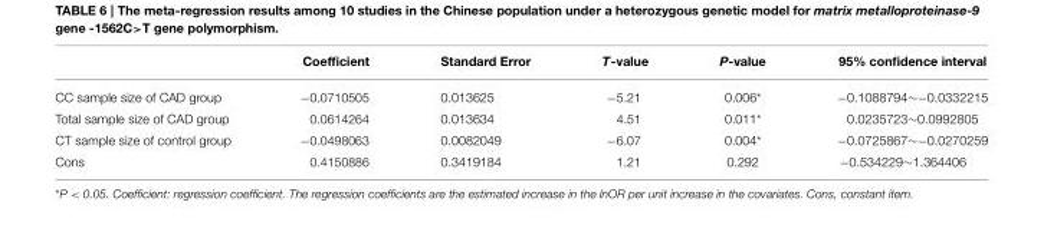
<table><thead><tr><td></td><td>Coefficient</td><td>Standard Error</td><td>T-value</td><td>P-value</td><td>95% confidence interval</td></tr></thead><tbody><tr><td>CC sample size of CAD group</td><td>−0.0710505</td><td>0.013625</td><td>−5.21</td><td>0.006*</td><td>−0.1088794∼−0.0332215</td></tr><tr><td>Total sample size of CAD group</td><td>0.0614264</td><td>0.013634</td><td>4.51</td><td>0.011*</td><td>0.0235723∼0.0992805</td></tr><tr><td>CT sample size of control group</td><td>−0.0498063</td><td>0.0082049</td><td>−6.07</td><td>0.004*</td><td>−0.0725867∼−0.0270259</td></tr><tr><td>Cons</td><td>0.4150886</td><td>0.3419184</td><td>1.21</td><td>0.292</td><td>−0.534229∼1.364406</td></tr></tbody></table>